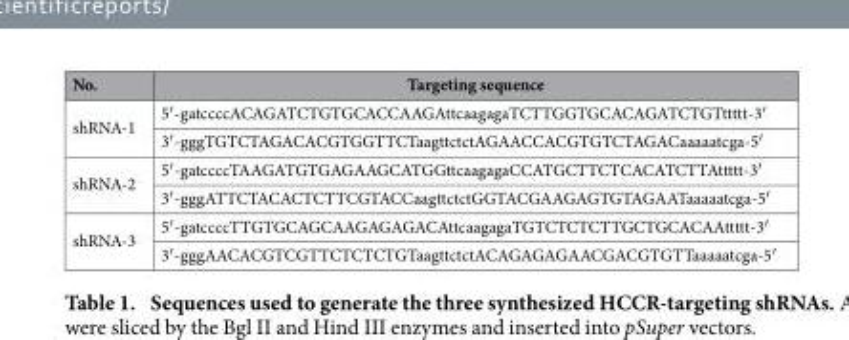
<table><thead><tr><td>No.</td><td>Targeting sequence</td></tr></thead><tbody><tr><td rowspan="2">shRNA-1</td><td>5′ -gatccccACAGATCTGTGCACCAAGAttcaagagaTCTTGGTGCACAGATCTGTttttt-3′</td></tr><tr><td>3′ -gggTGTCTAGACACGTGGTTCTaagttctctAGAACCACGTGTCTAGACaaaaatcga-5′</td></tr><tr><td rowspan="2">shRNA-2</td><td>5′ -gatccccTAAGATGTGAGAAGCATGGttcaagagaCCATGCTTCTCACATCTTAttttt-3′</td></tr><tr><td>3′ -gggATTCTACACTCTTCGTACCaagttctctGGTACGAAGAGTGTAGAATaaaaatcga-5′</td></tr><tr><td rowspan="2">shRNA-3</td><td>5′ -gatccccTTGTGCAGCAAGAGAGACAttcaagagaTGTCTCTCTTGCTGCACAAttttt-3′</td></tr><tr><td>3′ -gggAACACGTCGTTCTCTCTGTaagttctctACAGAGAGAACGACGTGTTaaaaatcga-5′</td></tr></tbody></table>